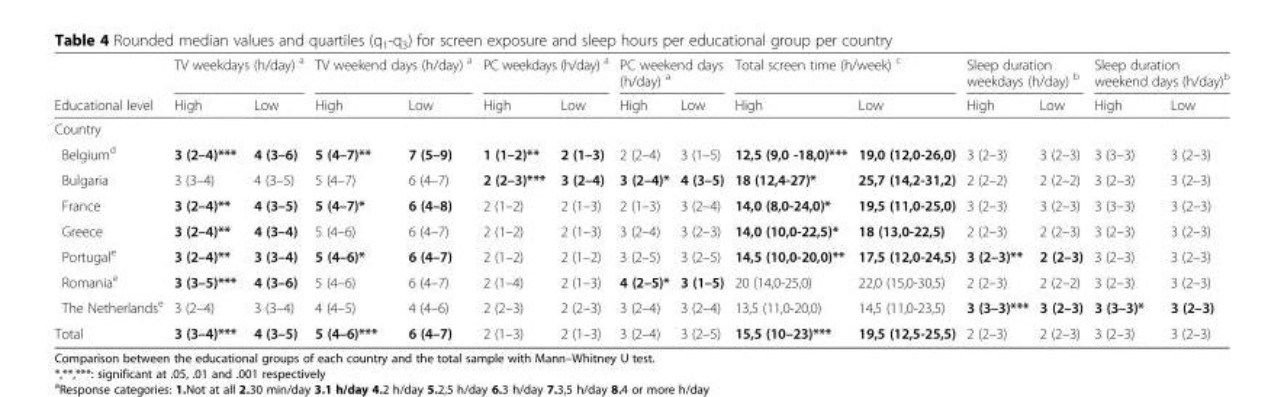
<table><thead><tr><td rowspan="2">Educational level</td><td colspan="2">TV weekdays (h/day) <sup>a</sup></td><td colspan="2">TV weekend days (h/day) <sup>a</sup></td><td colspan="2">PC weekdays (h/day) <sup>a</sup></td><td colspan="2">PC weekend days (h/day) <sup>a</sup></td><td colspan="2">Total screen time (h/week) <sup>c</sup></td><td colspan="2">Sleep duration weekdays (h/day) <sup>b</sup></td><td colspan="2">Sleep duration weekend days (h/day)<sup>b</sup></td></tr><tr><td>High</td><td>Low</td><td>High</td><td>Low</td><td>High</td><td>Low</td><td>High</td><td>Low</td><td>High</td><td>Low</td><td>High</td><td>Low</td><td>High</td><td>Low</td></tr></thead><tbody><tr><td colspan="15">Country</td></tr><tr><td>Belgium<sup>d</sup></td><td>3 (2–4)***</td><td>4 (3–6)</td><td>5 (4–7)**</td><td>7 (5–9)</td><td>1 (1–2)**</td><td>2 (1–3)</td><td>2 (2–4)</td><td>3 (1–5)</td><td>12,5 (9,0 -18,0)***</td><td>19,0 (12,0-26,0)</td><td>3 (2–3)</td><td>3 (2–3)</td><td>3 (3–3)</td><td>3 (2–3)</td></tr><tr><td>Bulgaria</td><td>3 (3–4)</td><td>4 (3–5)</td><td>5 (4–7)</td><td>6 (4–7)</td><td>2 (2–3)***</td><td>3 (2–4)</td><td>3 (2–4)*</td><td>4 (3–5)</td><td>18 (12,4-27)*</td><td>25,7 (14,2-31,2)</td><td>2 (2–2)</td><td>2 (2–2)</td><td>3 (2–3)</td><td>3 (2–3)</td></tr><tr><td>France</td><td>3 (2–4)**</td><td>4 (3–5)</td><td>5 (4–7)*</td><td>6 (4–8)</td><td>2 (1–2)</td><td>2 (1–3)</td><td>2 (1–3)</td><td>3 (2–4)</td><td>14,0 (8,0-24,0)*</td><td>19,5 (11,0-25,0)</td><td>3 (2–3)</td><td>3 (2–3)</td><td>3 (3–3)</td><td>3 (2–3)</td></tr><tr><td>Greece</td><td>3 (2–4)**</td><td>4 (3–4)</td><td>5 (4–6)</td><td>6 (4–7)</td><td>2 (1–2)</td><td>2 (1–3)</td><td>3 (2–4)</td><td>3 (2–3)</td><td>14,0 (10,0-22,5)*</td><td>18 (13,0-22,5)</td><td>2 (2–3)</td><td>2 (2–3)</td><td>3 (2–3)</td><td>3 (2–3)</td></tr><tr><td>Portugal<sup>e</sup></td><td>3 (2–4)**</td><td>3 (3–4)</td><td>5 (4–6)*</td><td>6 (4–7)</td><td>2 (1–2)</td><td>2 (1–2)</td><td>3 (2–5)</td><td>3 (2–5)</td><td>14,5 (10,0-20,0)**</td><td>17,5 (12,0-24,5)</td><td>3 (2–3)**</td><td>2 (2–3)</td><td>3 (2–3)</td><td>3 (2–3)</td></tr><tr><td>Romania<sup>e</sup></td><td>3 (3–5)***</td><td>4 (3–6)</td><td>5 (4–6)</td><td>6 (4–7)</td><td>2 (1–4)</td><td>2 (1–3)</td><td>4 (2–5)*</td><td>3 (1–5)</td><td>20 (14,0-25,0)</td><td>22,0 (15,0-30,5)</td><td>2 (2–3)</td><td>2 (2–2)</td><td>3 (2–3)</td><td>3 (2–3)</td></tr><tr><td>The Netherlands<sup>e</sup></td><td>3 (2–4)</td><td>3 (3–4)</td><td>4 (4–5)</td><td>4 (4–6)</td><td>2 (2–3)</td><td>2 (2–3)</td><td>3 (2–4)</td><td>3 (2–4)</td><td>13,5 (11,0-20,0)</td><td>14,5 (11,0-23,5)</td><td>3 (3–3)***</td><td>3 (2–3)</td><td>3 (3–3)*</td><td>3 (2–3)</td></tr><tr><td>Total</td><td>3 (3–4)***</td><td>4 (3–5)</td><td>5 (4–6)***</td><td>6 (4–7)</td><td>2 (1–3)</td><td>2 (1–3)</td><td>3 (2–4)</td><td>3 (2–5)</td><td>15,5 (10–23)***</td><td>19,5 (12,5-25,5)</td><td>2 (2–3)</td><td>2 (2–3)</td><td>3 (2–3)</td><td>3 (2–3)</td></tr></tbody></table>